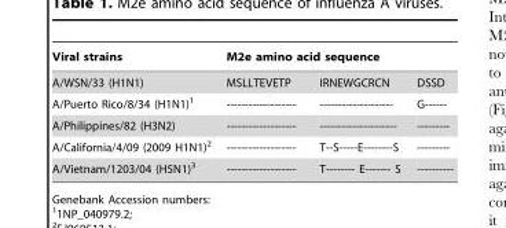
<table><thead><tr><td rowspan="2">Viral strains A/WSN/33 (H1N1)</td><td colspan="3">M2e amino acid sequence</td></tr><tr><td>MSLLTEVETP</td><td>IRNEWGCRCN</td><td>DSSD</td></tr></thead><tbody><tr><td>A/Puerto Rico/8/34 (H1N1)<sup>1</sup></td><td>-------------------</td><td>--------------------</td><td>G------</td></tr><tr><td>A/Philippines/82 (H3N2)</td><td>-------------------</td><td>---------------------</td><td>---------</td></tr><tr><td>A/California/4/09 (2009 H1N1)<sup>2</sup></td><td>-------------------</td><td>T--S-----E--------S</td><td>---------</td></tr><tr><td>A/Vietnam/1203/04 (H5N1)<sup>3</sup></td><td>-------------------</td><td>T-------- E------- S</td><td>----------</td></tr></tbody></table>